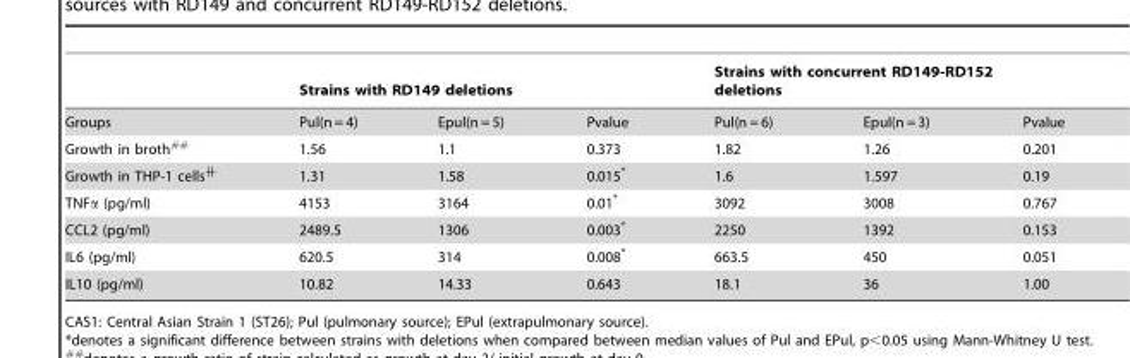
<table><thead><tr><td rowspan="2">Groups</td><td colspan="2">Strains with RD149 deletions</td><td rowspan="2">Pvalue</td><td colspan="2">Strains with concurrent RD149-RD152 deletions</td><td rowspan="2">Pvalue</td></tr><tr><td>Pul(n = 4)</td><td>Epul(n = 5)</td><td>Pul(n = 6)</td><td>Epul(n = 3)</td></tr></thead><tbody><tr><td>Growth in broth##</td><td>1.56</td><td>1.1</td><td>0.373</td><td>1.82</td><td>1.26</td><td>0.201</td></tr><tr><td>Growth in THP-1 cells— ||</td><td>1.31</td><td>1.58</td><td>0.015*</td><td>1.6</td><td>1.597</td><td>0.19</td></tr><tr><td>TNFα (pg/ml)</td><td>4153</td><td>3164</td><td>0.01*</td><td>3092</td><td>3008</td><td>0.767</td></tr><tr><td>CCL2 (pg/ml)</td><td>2489.5</td><td>1306</td><td>0.003*</td><td>2250</td><td>1392</td><td>0.153</td></tr><tr><td>IL6 (pg/ml)</td><td>620.5</td><td>314</td><td>0.008*</td><td>663.5</td><td>450</td><td>0.051</td></tr><tr><td>IL10 (pg/ml)</td><td>10.82</td><td>14.33</td><td>0.643</td><td>18.1</td><td>36</td><td>1.00</td></tr></tbody></table>